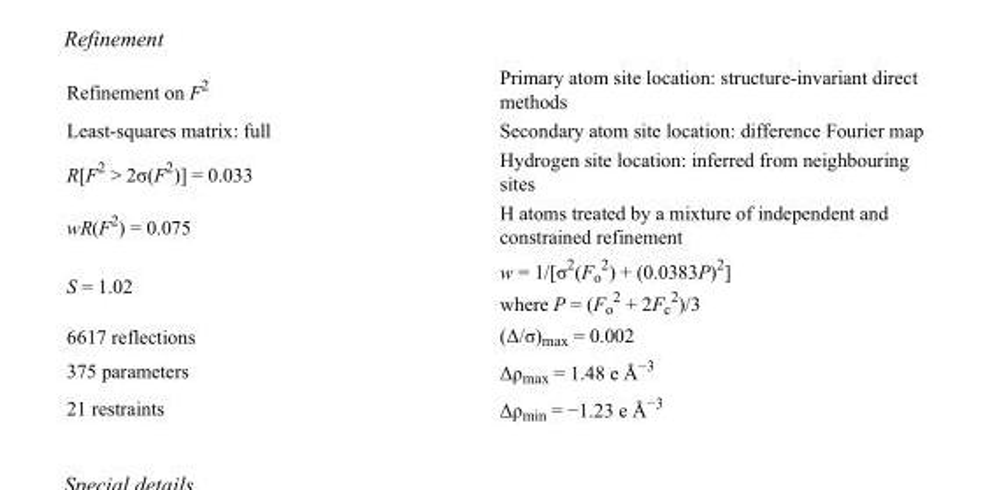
<table><tbody><tr><td>Refinement on F<sup>2</sup></td><td>Primary atom site location: structure-invariant direct methods</td></tr><tr><td>Least-squares matrix: full</td><td>Secondary atom site location: difference Fourier map</td></tr><tr><td>R[F<sup>2</sup> &gt; 2σ(F<sup>2</sup>)] = 0.033</td><td>Hydrogen site location: inferred from neighbouring sites</td></tr><tr><td>wR(F<sup>2</sup>) = 0.075</td><td>H atoms treated by a mixture of independent and constrained refinement</td></tr><tr><td>S = 1.02</td><td>w = 1/[σ<sup>2</sup>(F<sub>o</sub> <sup>2</sup>) + (0.0383P)<sup>2</sup>] where P = (F<sub>o</sub> <sup>2</sup> + 2F<sub>c</sub> <sup>2</sup>)/3</td></tr><tr><td>6617 reflections</td><td>(Δ/σ)<sub>max</sub> = 0.002</td></tr><tr><td>375 parameters</td><td>Δρ<sub>max</sub> = 1.48 e Å<sup>−3</sup></td></tr><tr><td>21 restraints</td><td>Δρ<sub>min</sub> = −1.23 e Å<sup>−3</sup></td></tr></tbody></table>